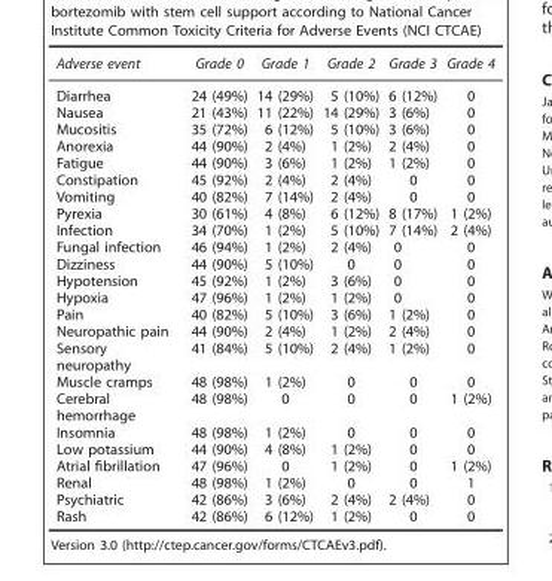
<table><thead><tr><td>Adverse event</td><td>Grade 0</td><td>Grade 1</td><td>Grade 2</td><td>Grade 3</td><td>Grade 4</td></tr></thead><tbody><tr><td>Diarrhea</td><td>24 (49%)</td><td>14 (29%)</td><td>5 (10%)</td><td>6 (12%)</td><td>0</td></tr><tr><td>Nausea</td><td>21 (43%)</td><td>11 (22%)</td><td>14 (29%)</td><td>3 (6%)</td><td>0</td></tr><tr><td>Mucositis</td><td>35 (72%)</td><td>6 (12%)</td><td>5 (10%)</td><td>3 (6%)</td><td>0</td></tr><tr><td>Anorexia</td><td>44 (90%)</td><td>2 (4%)</td><td>1 (2%)</td><td>2 (4%)</td><td>0</td></tr><tr><td>Fatigue</td><td>44 (90%)</td><td>3 (6%)</td><td>1 (2%)</td><td>1 (2%)</td><td>0</td></tr><tr><td>Constipation</td><td>45 (92%)</td><td>2 (4%)</td><td>2 (4%)</td><td>0</td><td>0</td></tr><tr><td>Vomiting</td><td>40 (82%)</td><td>7 (14%)</td><td>2 (4%)</td><td>0</td><td>0</td></tr><tr><td>Pyrexia</td><td>30 (61%)</td><td>4 (8%)</td><td>6 (12%)</td><td>8 (17%)</td><td>1 (2%)</td></tr><tr><td>Infection</td><td>34 (70%)</td><td>1 (2%)</td><td>5 (10%)</td><td>7 (14%)</td><td>2 (4%)</td></tr><tr><td>Fungal infection</td><td>46 (94%)</td><td>1 (2%)</td><td>2 (4%)</td><td>0</td><td>0</td></tr><tr><td>Dizziness</td><td>44 (90%)</td><td>5 (10%)</td><td>0</td><td>0</td><td>0</td></tr><tr><td>Hypotension</td><td>45 (92%)</td><td>1 (2%)</td><td>3 (6%)</td><td>0</td><td>0</td></tr><tr><td>Hypoxia</td><td>47 (96%)</td><td>1 (2%)</td><td>1 (2%)</td><td>0</td><td>0</td></tr><tr><td>Pain</td><td>40 (82%)</td><td>5 (10%)</td><td>3 (6%)</td><td>1 (2%)</td><td>0</td></tr><tr><td>Neuropathic pain</td><td>44 (90%)</td><td>2 (4%)</td><td>1 (2%)</td><td>2 (4%)</td><td>0</td></tr><tr><td>Sensory neuropathy</td><td>41 (84%)</td><td>5 (10%)</td><td>2 (4%)</td><td>1 (2%)</td><td>0</td></tr><tr><td>Muscle cramps</td><td>48 (98%)</td><td>1 (2%)</td><td>0</td><td>0</td><td>0</td></tr><tr><td>Cerebral hemorrhage</td><td>48 (98%)</td><td>0</td><td>0</td><td>0</td><td>1 (2%)</td></tr><tr><td>Insomnia</td><td>48 (98%)</td><td>1 (2%)</td><td>0</td><td>0</td><td>0</td></tr><tr><td>Low potassium</td><td>44 (90%)</td><td>4 (8%)</td><td>1 (2%)</td><td>0</td><td>0</td></tr><tr><td>Atrial fibrillation</td><td>47 (96%)</td><td>0</td><td>1 (2%)</td><td>0</td><td>1 (2%)</td></tr><tr><td>Renal</td><td>48 (98%)</td><td>1 (2%)</td><td>0</td><td>0</td><td>1</td></tr><tr><td>Psychiatric</td><td>42 (86%)</td><td>3 (6%)</td><td>2 (4%)</td><td>2 (4%)</td><td>0</td></tr><tr><td>Rash</td><td>42 (86%)</td><td>6 (12%)</td><td>1 (2%)</td><td>0</td><td>0</td></tr></tbody></table>